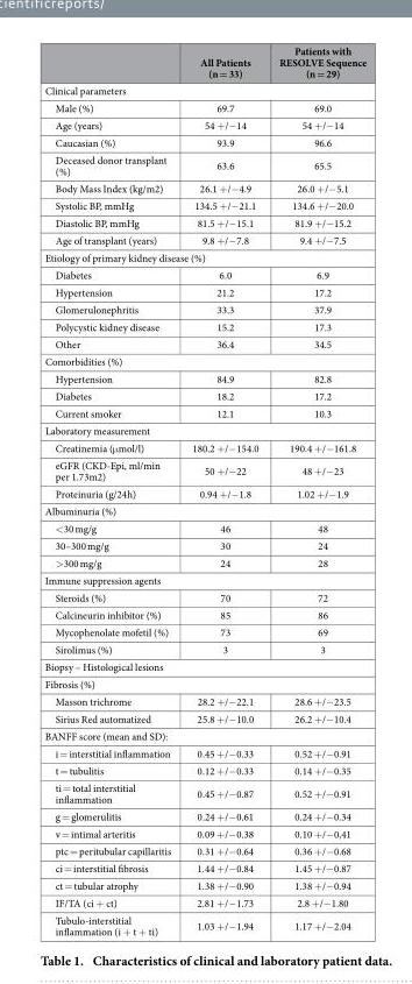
<table><thead><tr><td></td><td>All Patients (n = 33)</td><td>Patients with RESOLVE Sequence (n = 29)</td></tr></thead><tbody><tr><td colspan="3">Clinical parameters</td></tr><tr><td>Male (%)</td><td>69.7</td><td>69.0</td></tr><tr><td>Age (years)</td><td>54 + /− 14</td><td>54 + /− 14</td></tr><tr><td>Caucasian (%)</td><td>93.9</td><td>96.6</td></tr><tr><td>Deceased donor transplant (%)</td><td>63.6</td><td>65.5</td></tr><tr><td>Body Mass Index (kg/m2)</td><td>26.1 + /− 4.9</td><td>26.0 + /− 5.1</td></tr><tr><td>Systolic BP, mmHg</td><td>134.5 + /− 21.1</td><td>134.6 + /− 20.0</td></tr><tr><td>Diastolic BP, mmHg</td><td>81.5 + /− 15.1</td><td>81.9 + /− 15.2</td></tr><tr><td>Age of transplant (years)</td><td>9.8 + /− 7.8</td><td>9.4 + /− 7.5</td></tr><tr><td colspan="3">Etiology of primary kidney disease (%)</td></tr><tr><td>Diabetes</td><td>6.0</td><td>6.9</td></tr><tr><td>Hypertension</td><td>21.2</td><td>17.2</td></tr><tr><td>Glomerulonephritis</td><td>33.3</td><td>37.9</td></tr><tr><td>Polycystic kidney disease</td><td>15.2</td><td>17.3</td></tr><tr><td>Other</td><td>36.4</td><td>34.5</td></tr><tr><td colspan="3">Comorbidities (%)</td></tr><tr><td>Hypertension</td><td>84.9</td><td>82.8</td></tr><tr><td>Diabetes</td><td>18.2</td><td>17.2</td></tr><tr><td>Current smoker</td><td>12.1</td><td>10.3</td></tr><tr><td colspan="3">Laboratory measurement</td></tr><tr><td>Creatinemia (μ mol/l)</td><td>180.2 + /− 154.0</td><td>190.4 + /− 161.8</td></tr><tr><td>eGFR (CKD-Epi, ml/min per 1.73m2)</td><td>50 + /− 22</td><td>48 + /− 23</td></tr><tr><td>Proteinuria (g/24h)</td><td>0.94 + /− 1.8</td><td>1.02 + /− 1.9</td></tr><tr><td colspan="3">Albuminuria (%)</td></tr><tr><td>&lt; 30 mg/g</td><td>46</td><td>48</td></tr><tr><td>30–300 mg/g</td><td>30</td><td>24</td></tr><tr><td>&gt; 300 mg/g</td><td>24</td><td>28</td></tr><tr><td colspan="3">Immune suppression agents</td></tr><tr><td>Steroids (%)</td><td>70</td><td>72</td></tr><tr><td>Calcineurin inhibitor (%)</td><td>85</td><td>86</td></tr><tr><td>Mycophenolate mofetil (%)</td><td>73</td><td>69</td></tr><tr><td>Sirolimus (%)</td><td>3</td><td>3</td></tr><tr><td colspan="3">Biopsy – Histological lesions</td></tr><tr><td colspan="3">Fibrosis (%)</td></tr><tr><td>Masson trichrome</td><td>28.2 + /− 22.1</td><td>28.6 + /− 23.5</td></tr><tr><td>Sirius Red automatized</td><td>25.8 + /− 10.0</td><td>26.2 + /− 10.4</td></tr><tr><td colspan="3">BANFF score (mean and SD):</td></tr><tr><td>i = interstitial inflammation</td><td>0.45 + /− 0.33</td><td>0.52 + /− 0.91</td></tr><tr><td>t = tubulitis</td><td>0.12 + /− 0.33</td><td>0.14 + /− 0.35</td></tr><tr><td>ti = total interstitial inflammation</td><td>0.45 + /− 0.87</td><td>0.52 + /− 0.91</td></tr><tr><td>g = glomerulitis</td><td>0.24 + /− 0.61</td><td>0.24 + /− 0.34</td></tr><tr><td>v = intimal arteritis</td><td>0.09 + /− 0.38</td><td>0.10 + /− 0,41</td></tr><tr><td>ptc = peritubular capillaritis</td><td>0.31 + /− 0.64</td><td>0.36 + /− 0.68</td></tr><tr><td>ci = interstitial fibrosis</td><td>1.44 + /− 0.84</td><td>1.45 + /− 0.87</td></tr><tr><td>ct = tubular atrophy</td><td>1.38 + /− 0.90</td><td>1.38 + /− 0.94</td></tr><tr><td>IF/TA (ci + ct)</td><td>2.81 + /− 1.73</td><td>2.8 + /− 1.80</td></tr><tr><td>Tubulo-interstitial inflammation (i + t + ti)</td><td>1.03 + /− 1.94</td><td>1.17 + /− 2.04</td></tr></tbody></table>